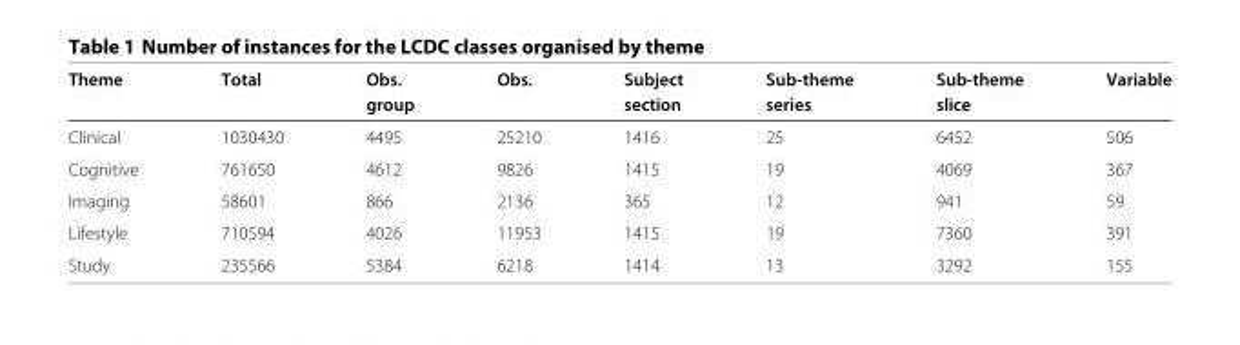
<table><thead><tr><td rowspan="2">Theme</td><td rowspan="2">Total</td><td rowspan="2">Obs. group</td><td rowspan="2">Obs.</td><td rowspan="2">Subject section</td><td rowspan="2">Sub-theme series</td><td rowspan="2">Sub-theme slice</td><td rowspan="2">Variable</td></tr><tr></tr></thead><tbody><tr><td>Clinical</td><td>1030430</td><td>4495</td><td>25210</td><td>1416</td><td>25</td><td>6452</td><td>506</td></tr><tr><td>Cognitive</td><td>761650</td><td>4612</td><td>9826</td><td>1415</td><td>19</td><td>4069</td><td>367</td></tr><tr><td>Imaging</td><td>58601</td><td>866</td><td>2136</td><td>365</td><td>12</td><td>941</td><td>59</td></tr><tr><td>Lifestyle</td><td>710594</td><td>4026</td><td>11953</td><td>1415</td><td>19</td><td>7360</td><td>391</td></tr><tr><td>Study</td><td>235566</td><td>5384</td><td>6218</td><td>1414</td><td>13</td><td>3292</td><td>155</td></tr></tbody></table>